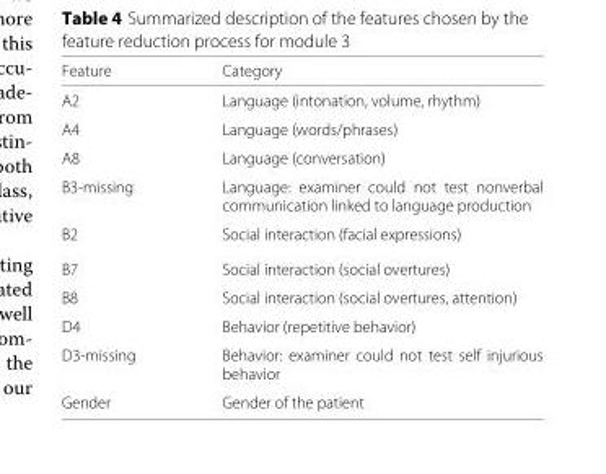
<table><thead><tr><td>Feature</td><td>Category</td></tr></thead><tbody><tr><td>A2</td><td>Language (intonation, volume, rhythm)</td></tr><tr><td>A4</td><td>Language (words/phrases)</td></tr><tr><td>A8</td><td>Language (conversation)</td></tr><tr><td>B3-missing</td><td>Language: examiner could not test nonverbal communication linked to language production</td></tr><tr><td>B2</td><td>Social interaction (facial expressions)</td></tr><tr><td>B7</td><td>Social interaction (social overtures)</td></tr><tr><td>B8</td><td>Social interaction (social overtures, attention)</td></tr><tr><td>D4</td><td>Behavior (repetitive behavior)</td></tr><tr><td>D3-missing</td><td>Behavior: examiner could not test self injurious behavior</td></tr><tr><td>Gender</td><td>Gender of the patient</td></tr></tbody></table>